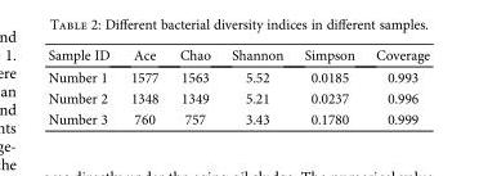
<table><thead><tr><td>Sample ID</td><td>Ace</td><td>Chao</td><td>Shannon</td><td>Simpson</td><td>Coverage</td></tr></thead><tbody><tr><td>Number 1</td><td>1577</td><td>1563</td><td>5.52</td><td>0.0185</td><td>0.993</td></tr><tr><td>Number 2</td><td>1348</td><td>1349</td><td>5.21</td><td>0.0237</td><td>0.996</td></tr><tr><td>Number 3</td><td>760</td><td>757</td><td>3.43</td><td>0.1780</td><td>0.999</td></tr></tbody></table>